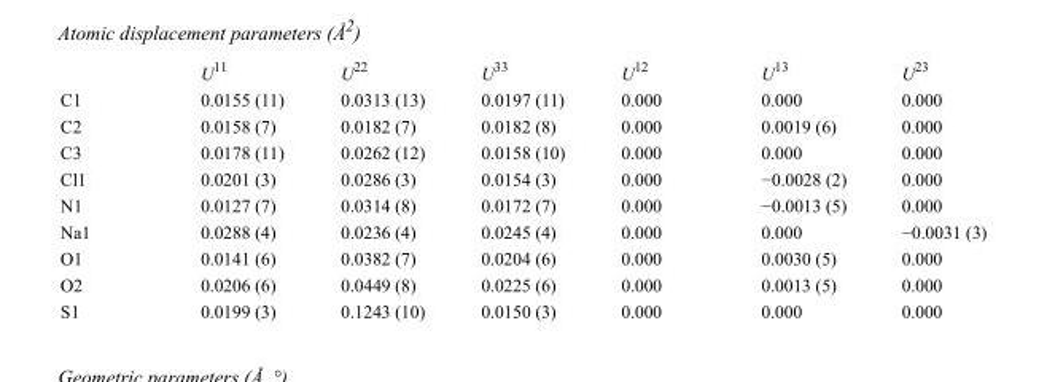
<table><thead><tr><td></td><td>U<sup>11</sup></td><td>U<sup>22</sup></td><td>U<sup>33</sup></td><td>U<sup>12</sup></td><td>U<sup>13</sup></td><td>U<sup>23</sup></td></tr></thead><tbody><tr><td>C1</td><td>0.0155 (11)</td><td>0.0313 (13)</td><td>0.0197 (11)</td><td>0.000</td><td>0.000</td><td>0.000</td></tr><tr><td>C2</td><td>0.0158 (7)</td><td>0.0182 (7)</td><td>0.0182 (8)</td><td>0.000</td><td>0.0019 (6)</td><td>0.000</td></tr><tr><td>C3</td><td>0.0178 (11)</td><td>0.0262 (12)</td><td>0.0158 (10)</td><td>0.000</td><td>0.000</td><td>0.000</td></tr><tr><td>Cl1</td><td>0.0201 (3)</td><td>0.0286 (3)</td><td>0.0154 (3)</td><td>0.000</td><td>−0.0028 (2)</td><td>0.000</td></tr><tr><td>N1</td><td>0.0127 (7)</td><td>0.0314 (8)</td><td>0.0172 (7)</td><td>0.000</td><td>−0.0013 (5)</td><td>0.000</td></tr><tr><td>Na1</td><td>0.0288 (4)</td><td>0.0236 (4)</td><td>0.0245 (4)</td><td>0.000</td><td>0.000</td><td>−0.0031 (3)</td></tr><tr><td>O1</td><td>0.0141 (6)</td><td>0.0382 (7)</td><td>0.0204 (6)</td><td>0.000</td><td>0.0030 (5)</td><td>0.000</td></tr><tr><td>O2</td><td>0.0206 (6)</td><td>0.0449 (8)</td><td>0.0225 (6)</td><td>0.000</td><td>0.0013 (5)</td><td>0.000</td></tr><tr><td>S1</td><td>0.0199 (3)</td><td>0.1243 (10)</td><td>0.0150 (3)</td><td>0.000</td><td>0.000</td><td>0.000</td></tr></tbody></table>